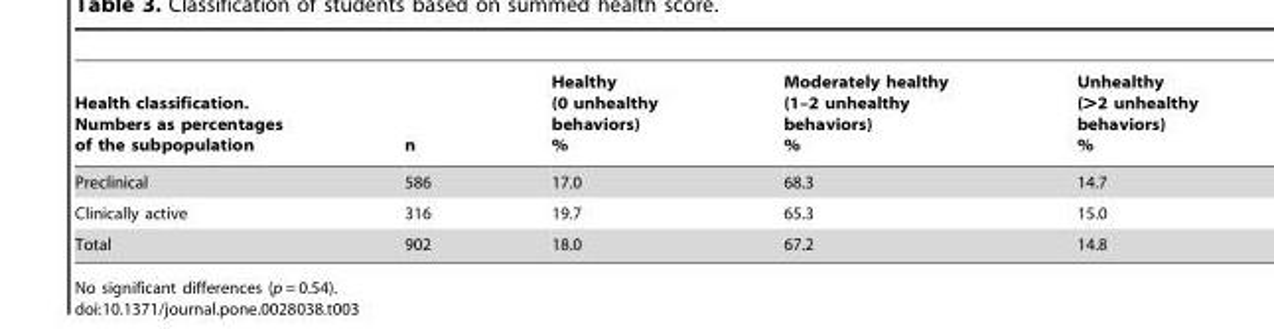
<table><thead><tr><td>Health classification. Numbers as percentages of the subpopulation</td><td>n</td><td>Healthy (0 unhealthy behaviors) %</td><td>Moderately healthy (1–2 unhealthy behaviors) %</td><td>Unhealthy (&gt;2 unhealthy behaviors) %</td></tr></thead><tbody><tr><td>Preclinical</td><td>586</td><td>17.0</td><td>68.3</td><td>14.7</td></tr><tr><td>Clinically active</td><td>316</td><td>19.7</td><td>65.3</td><td>15.0</td></tr><tr><td>Total</td><td>902</td><td>18.0</td><td>67.2</td><td>14.8</td></tr></tbody></table>